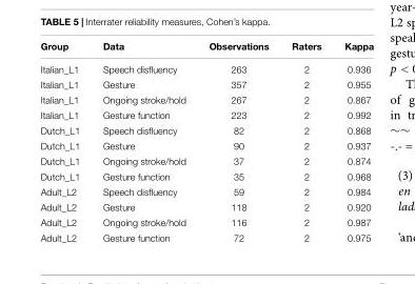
<table><thead><tr><td>Group</td><td>Data</td><td>Observations</td><td>Raters</td><td>Kappa</td></tr></thead><tbody><tr><td>Italian_L1</td><td>Speech disfluency</td><td>263</td><td>2</td><td>0.936</td></tr><tr><td>Italian_L1</td><td>Gesture</td><td>357</td><td>2</td><td>0.955</td></tr><tr><td>Italian_L1</td><td>Ongoing stroke/hold</td><td>267</td><td>2</td><td>0.867</td></tr><tr><td>Italian_L1</td><td>Gesture function</td><td>223</td><td>2</td><td>0.992</td></tr><tr><td>Dutch_L1</td><td>Speech disfluency</td><td>82</td><td>2</td><td>0.868</td></tr><tr><td>Dutch_L1</td><td>Gesture</td><td>90</td><td>2</td><td>0.937</td></tr><tr><td>Dutch_L1</td><td>Ongoing stroke/hold</td><td>37</td><td>2</td><td>0.874</td></tr><tr><td>Dutch_L1</td><td>Gesture function</td><td>35</td><td>2</td><td>0.968</td></tr><tr><td>Adult_L2</td><td>Speech disfluency</td><td>59</td><td>2</td><td>0.984</td></tr><tr><td>Adult_L2</td><td>Gesture</td><td>118</td><td>2</td><td>0.920</td></tr><tr><td>Adult_L2</td><td>Ongoing stroke/hold</td><td>116</td><td>2</td><td>0.987</td></tr><tr><td>Adult_L2</td><td>Gesture function</td><td>72</td><td>2</td><td>0.975</td></tr></tbody></table>